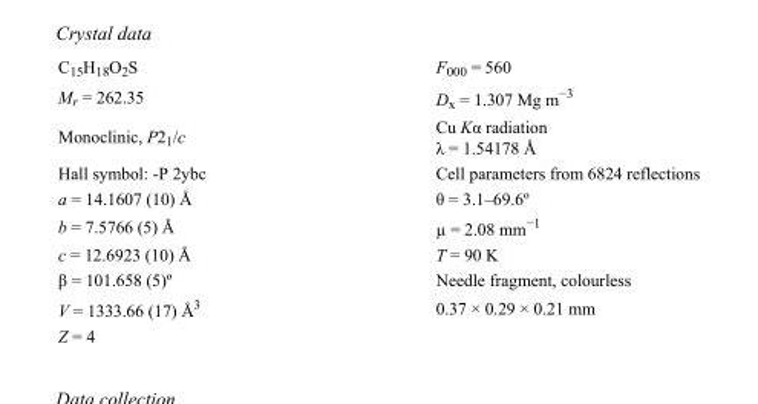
<table><tbody><tr><td>C<sub>15</sub>H<sub>18</sub>O<sub>2</sub>S</td><td>F<sub>000</sub> = 560</td></tr><tr><td>M<sub>r</sub> = 262.35</td><td>D<sub>x</sub> = 1.307 Mg m<sup>−3</sup></td></tr><tr><td>Monoclinic, P2<sub>1</sub>/c</td><td>Cu Kα radiation λ = 1.54178 Å</td></tr><tr><td>Hall symbol: -P 2ybc</td><td>Cell parameters from 6824 reflections</td></tr><tr><td>a = 14.1607 (10) Å</td><td>θ = 3.1–69.6º</td></tr><tr><td>b = 7.5766 (5) Å</td><td>µ = 2.08 mm<sup>−1</sup></td></tr><tr><td>c = 12.6923 (10) Å</td><td>T = 90 K</td></tr><tr><td>β = 101.658 (5)º</td><td>Needle fragment, colourless</td></tr><tr><td>V = 1333.66 (17) Å<sup>3</sup></td><td>0.37 × 0.29 × 0.21 mm</td></tr><tr><td>Z = 4</td><td></td></tr></tbody></table>